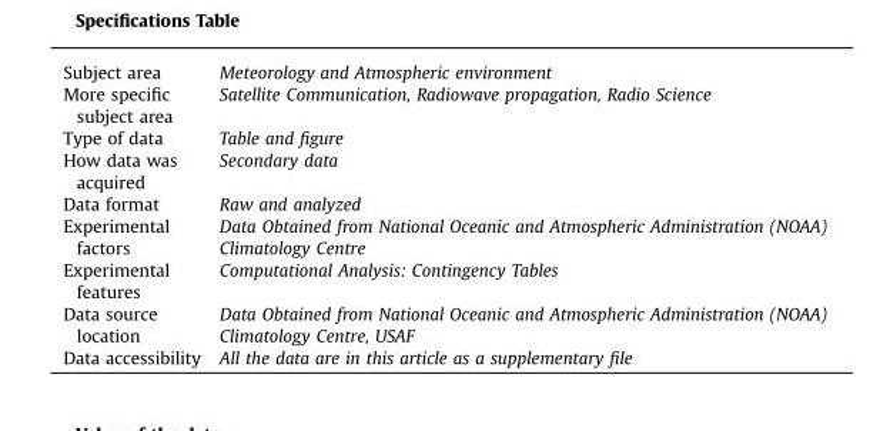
<table><tbody><tr><td>Subject area</td><td>Meteorology and Atmospheric environment</td></tr><tr><td>More specific subject area</td><td>Satellite Communication, Radiowave propagation, Radio Science</td></tr><tr><td>Type of data</td><td>Table and figure</td></tr><tr><td>How data was acquired</td><td>Secondary data</td></tr><tr><td>Data format</td><td>Raw and analyzed</td></tr><tr><td>Experimental factors</td><td>Data Obtained from National Oceanic and Atmospheric Administration (NOAA) Climatology Centre</td></tr><tr><td>Experimental features</td><td>Computational Analysis: Contingency Tables</td></tr><tr><td>Data source location</td><td>Data Obtained from National Oceanic and Atmospheric Administration (NOAA) Climatology Centre, USAF</td></tr><tr><td>Data accessibility</td><td>All the data are in this article as a supplementary file</td></tr></tbody></table>